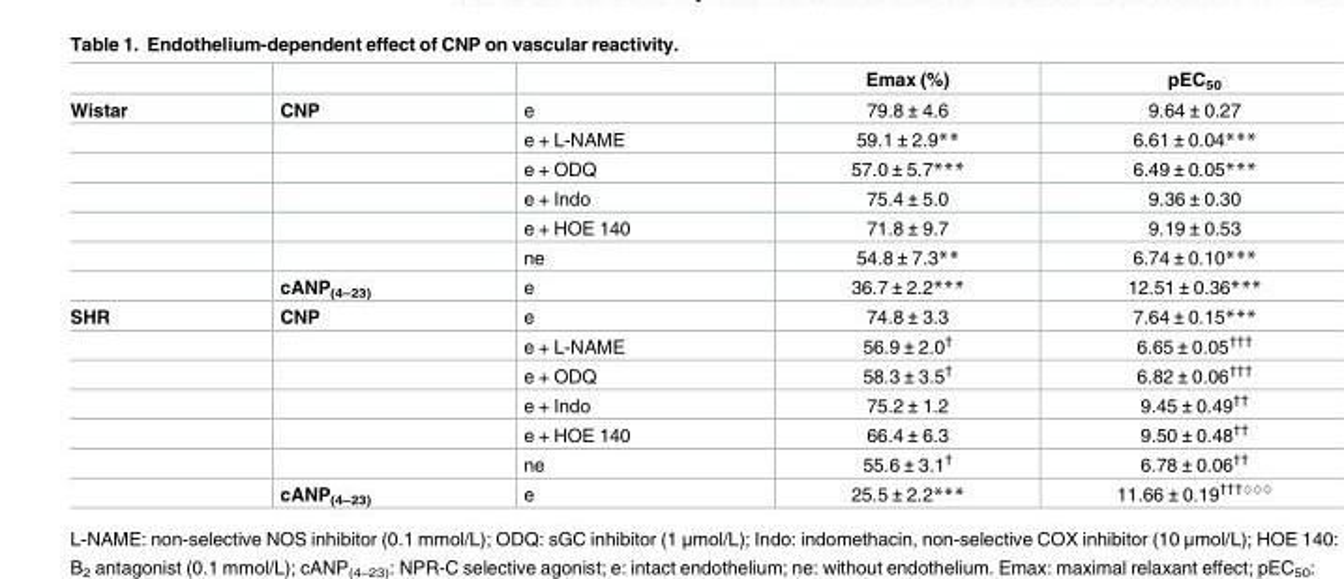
<table><thead><tr><td></td><td></td><td></td><td>Emax (%)</td><td>pEC<sub>50</sub></td></tr></thead><tbody><tr><td rowspan="7">Wistar</td><td>CNP</td><td>e</td><td>79.8 ± 4.6</td><td>9.64 ± 0.27</td></tr><tr><td></td><td>e + L-NAME</td><td>59.1 ± 2.9**</td><td>6.61 ± 0.04***</td></tr><tr><td></td><td>e + ODQ</td><td>57.0 ± 5.7***</td><td>6.49 ± 0.05***</td></tr><tr><td></td><td>e + Indo</td><td>75.4 ± 5.0</td><td>9.36 ± 0.30</td></tr><tr><td></td><td>e + HOE 140</td><td>71.8 ± 9.7</td><td>9.19 ± 0.53</td></tr><tr><td></td><td>ne</td><td>54.8 ± 7.3**</td><td>6.74 ± 0.10***</td></tr><tr><td>cANP<sub>(4–23)</sub></td><td>e</td><td>36.7 ± 2.2***</td><td>12.51 ± 0.36***</td></tr><tr><td rowspan="7">SHR</td><td>CNP</td><td>e</td><td>74.8 ± 3.3</td><td>7.64 ± 0.15***</td></tr><tr><td></td><td>e + L-NAME</td><td>56.9 ± 2.0<sup>†</sup></td><td>6.65 ± 0.05<sup>†††</sup></td></tr><tr><td></td><td>e + ODQ</td><td>58.3 ± 3.5<sup>†</sup></td><td>6.82 ± 0.06<sup>†††</sup></td></tr><tr><td></td><td>e + Indo</td><td>75.2 ± 1.2</td><td>9.45 ± 0.49<sup>††</sup></td></tr><tr><td></td><td>e + HOE 140</td><td>66.4 ± 6.3</td><td>9.50 ± 0.48<sup>††</sup></td></tr><tr><td></td><td>ne</td><td>55.6 ± 3.1<sup>†</sup></td><td>6.78 ± 0.06<sup>††</sup></td></tr><tr><td>cANP<sub>(4–23)</sub></td><td>e</td><td>25.5 ± 2.2***</td><td>11.66 ± 0.19<sup>†††◊◊◊</sup></td></tr></tbody></table>